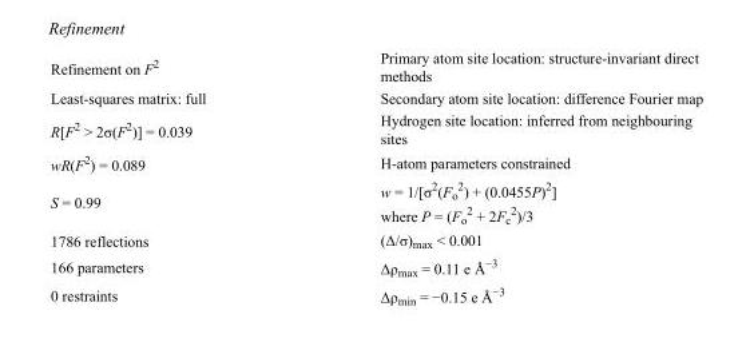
<table><tbody><tr><td>Refinement on F<sup>2</sup></td><td>Primary atom site location: structure-invariant direct methods</td></tr><tr><td>Least-squares matrix: full</td><td>Secondary atom site location: difference Fourier map</td></tr><tr><td>R[F<sup>2</sup> &gt; 2σ(F<sup>2</sup>)] = 0.039</td><td>Hydrogen site location: inferred from neighbouring sites</td></tr><tr><td>wR(F<sup>2</sup>) = 0.089</td><td>H-atom parameters constrained</td></tr><tr><td>S = 0.99</td><td>w = 1/[σ<sup>2</sup>(F<sub>o</sub> <sup>2</sup>) + (0.0455P)<sup>2</sup>] where P = (F<sub>o</sub> <sup>2</sup> + 2F<sub>c</sub> <sup>2</sup>)/3</td></tr><tr><td>1786 reflections</td><td>(Δ/σ)<sub>max</sub> &lt; 0.001</td></tr><tr><td>166 parameters</td><td>Δρ<sub>max</sub> = 0.11 e Å<sup>−3</sup></td></tr><tr><td>0 restraints</td><td>Δρ<sub>min</sub> = −0.15 e Å<sup>−3</sup></td></tr></tbody></table>